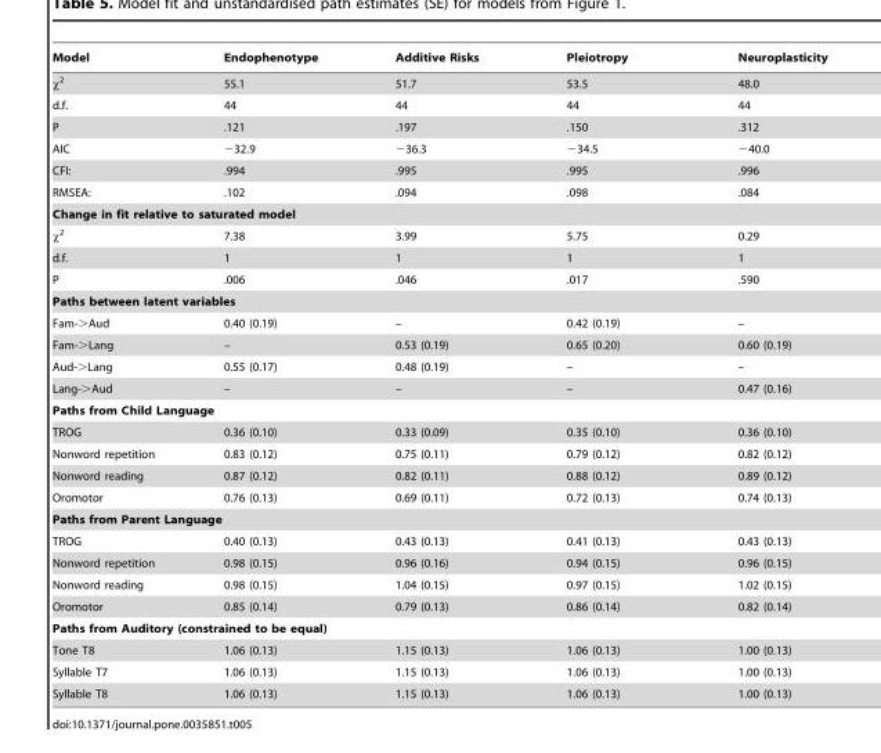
<table><thead><tr><td>Model</td><td>Endophenotype</td><td>Additive Risks</td><td>Pleiotropy</td><td>Neuroplasticity</td></tr></thead><tbody><tr><td>χ<sup>2</sup></td><td>55.1</td><td>51.7</td><td>53.5</td><td>48.0</td></tr><tr><td>d.f.</td><td>44</td><td>44</td><td>44</td><td>44</td></tr><tr><td>P</td><td>.121</td><td>.197</td><td>.150</td><td>.312</td></tr><tr><td>AIC</td><td>−32.9</td><td>−36.3</td><td>−34.5</td><td>−40.0</td></tr><tr><td>CFI:</td><td>.994</td><td>.995</td><td>.995</td><td>.996</td></tr><tr><td>RMSEA:</td><td>.102</td><td>.094</td><td>.098</td><td>.084</td></tr><tr><td colspan="5">Change in fit relative to saturated model</td></tr><tr><td>χ<sup>2</sup></td><td>7.38</td><td>3.99</td><td>5.75</td><td>0.29</td></tr><tr><td>d.f.</td><td>1</td><td>1</td><td>1</td><td>1</td></tr><tr><td>P</td><td>.006</td><td>.046</td><td>.017</td><td>.590</td></tr><tr><td colspan="5">Paths between latent variables</td></tr><tr><td>Fam-&gt;Aud</td><td>0.40 (0.19)</td><td>–</td><td>0.42 (0.19)</td><td>–</td></tr><tr><td>Fam-&gt;Lang</td><td>–</td><td>0.53 (0.19)</td><td>0.65 (0.20)</td><td>0.60 (0.19)</td></tr><tr><td>Aud-&gt;Lang</td><td>0.55 (0.17)</td><td>0.48 (0.19)</td><td>–</td><td>–</td></tr><tr><td>Lang-&gt;Aud</td><td>–</td><td>–</td><td>–</td><td>0.47 (0.16)</td></tr><tr><td colspan="5">Paths from Child Language</td></tr><tr><td>TROG</td><td>0.36 (0.10)</td><td>0.33 (0.09)</td><td>0.35 (0.10)</td><td>0.36 (0.10)</td></tr><tr><td>Nonword repetition</td><td>0.83 (0.12)</td><td>0.75 (0.11)</td><td>0.79 (0.12)</td><td>0.82 (0.12)</td></tr><tr><td>Nonword reading</td><td>0.87 (0.12)</td><td>0.82 (0.11)</td><td>0.88 (0.12)</td><td>0.89 (0.12)</td></tr><tr><td>Oromotor</td><td>0.76 (0.13)</td><td>0.69 (0.11)</td><td>0.72 (0.13)</td><td>0.74 (0.13)</td></tr><tr><td colspan="5">Paths from Parent Language</td></tr><tr><td>TROG</td><td>0.40 (0.13)</td><td>0.43 (0.13)</td><td>0.41 (0.13)</td><td>0.43 (0.13)</td></tr><tr><td>Nonword repetition</td><td>0.98 (0.15)</td><td>0.96 (0.16)</td><td>0.94 (0.15)</td><td>0.96 (0.15)</td></tr><tr><td>Nonword reading</td><td>0.98 (0.15)</td><td>1.04 (0.15)</td><td>0.97 (0.15)</td><td>1.02 (0.15)</td></tr><tr><td>Oromotor</td><td>0.85 (0.14)</td><td>0.79 (0.13)</td><td>0.86 (0.14)</td><td>0.82 (0.14)</td></tr><tr><td colspan="5">Paths from Auditory (constrained to be equal)</td></tr><tr><td>Tone T8</td><td>1.06 (0.13)</td><td>1.15 (0.13)</td><td>1.06 (0.13)</td><td>1.00 (0.13)</td></tr><tr><td>Syllable T7</td><td>1.06 (0.13)</td><td>1.15 (0.13)</td><td>1.06 (0.13)</td><td>1.00 (0.13)</td></tr><tr><td>Syllable T8</td><td>1.06 (0.13)</td><td>1.15 (0.13)</td><td>1.06 (0.13)</td><td>1.00 (0.13)</td></tr></tbody></table>